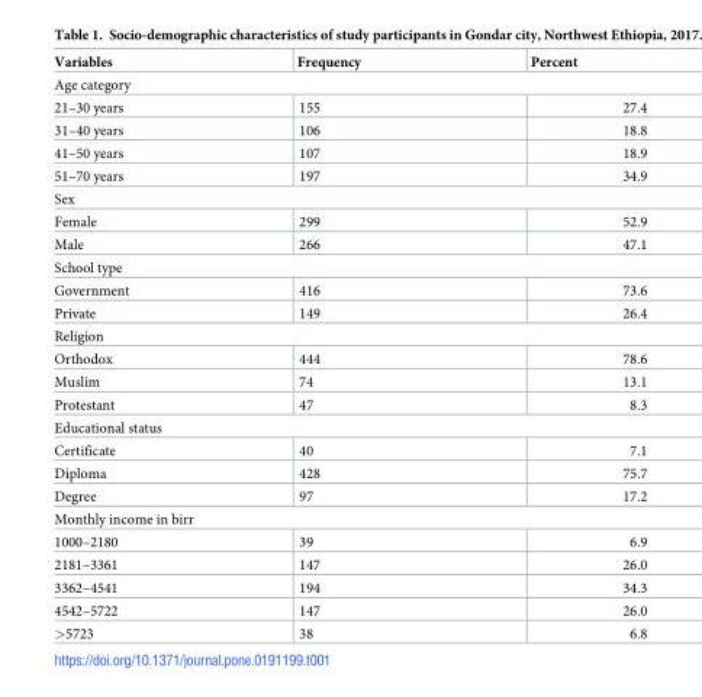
<table><thead><tr><td>Variables</td><td>Frequency</td><td>Percent</td></tr></thead><tbody><tr><td colspan="3">Age category</td></tr><tr><td>21–30 years</td><td>155</td><td>27.4</td></tr><tr><td>31–40 years</td><td>106</td><td>18.8</td></tr><tr><td>41–50 years</td><td>107</td><td>18.9</td></tr><tr><td>51–70 years</td><td>197</td><td>34.9</td></tr><tr><td colspan="3">Sex</td></tr><tr><td>Female</td><td>299</td><td>52.9</td></tr><tr><td>Male</td><td>266</td><td>47.1</td></tr><tr><td colspan="3">School type</td></tr><tr><td>Government</td><td>416</td><td>73.6</td></tr><tr><td>Private</td><td>149</td><td>26.4</td></tr><tr><td colspan="3">Religion</td></tr><tr><td>Orthodox</td><td>444</td><td>78.6</td></tr><tr><td>Muslim</td><td>74</td><td>13.1</td></tr><tr><td>Protestant</td><td>47</td><td>8.3</td></tr><tr><td colspan="3">Educational status</td></tr><tr><td>Certificate</td><td>40</td><td>7.1</td></tr><tr><td>Diploma</td><td>428</td><td>75.7</td></tr><tr><td>Degree</td><td>97</td><td>17.2</td></tr><tr><td colspan="3">Monthly income in birr</td></tr><tr><td>1000–2180</td><td>39</td><td>6.9</td></tr><tr><td>2181–3361</td><td>147</td><td>26.0</td></tr><tr><td>3362–4541</td><td>194</td><td>34.3</td></tr><tr><td>4542–5722</td><td>147</td><td>26.0</td></tr><tr><td>&gt;5723</td><td>38</td><td>6.8</td></tr></tbody></table>